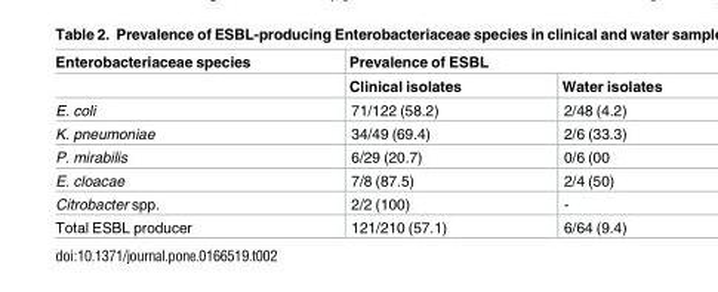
<table><thead><tr><td rowspan="2">Enterobacteriaceae species</td><td colspan="2">Prevalence of ESBL</td></tr><tr><td>Clinical isolates</td><td>Water isolates</td></tr></thead><tbody><tr><td>E. coli</td><td>71/122 (58.2)</td><td>2/48 (4.2)</td></tr><tr><td>K. pneumoniae</td><td>34/49 (69.4)</td><td>2/6 (33.3)</td></tr><tr><td>P. mirabilis</td><td>6/29 (20.7)</td><td>0/6 (00</td></tr><tr><td>E. cloacae</td><td>7/8 (87.5)</td><td>2/4 (50)</td></tr><tr><td>Citrobacter spp.</td><td>2/2 (100)</td><td>-</td></tr><tr><td>Total ESBL producer</td><td>121/210 (57.1)</td><td>6/64 (9.4)</td></tr></tbody></table>